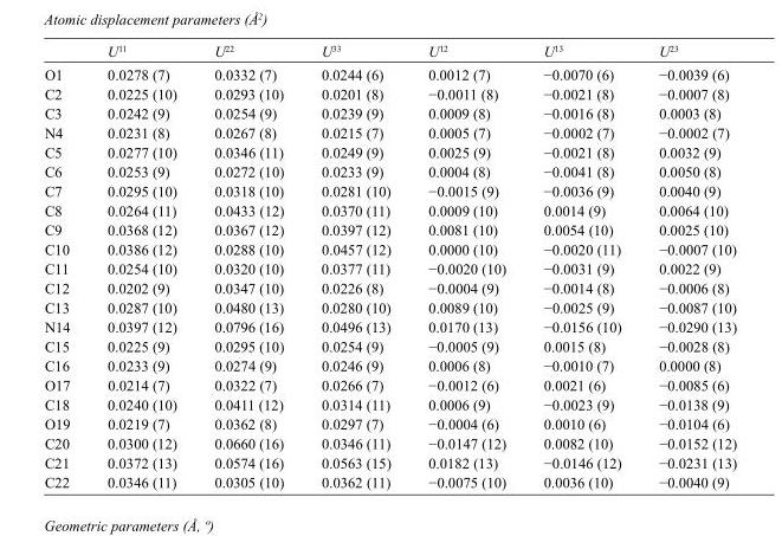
<table><thead><tr><td></td><td>U<sup>11</sup></td><td>U<sup>22</sup></td><td>U<sup>33</sup></td><td>U<sup>12</sup></td><td>U<sup>13</sup></td><td>U<sup>23</sup></td></tr></thead><tbody><tr><td>O1</td><td>0.0278 (7)</td><td>0.0332 (7)</td><td>0.0244 (6)</td><td>0.0012 (7)</td><td>−0.0070 (6)</td><td>−0.0039 (6)</td></tr><tr><td>C2</td><td>0.0225 (10)</td><td>0.0293 (10)</td><td>0.0201 (8)</td><td>−0.0011 (8)</td><td>−0.0021 (8)</td><td>−0.0007 (8)</td></tr><tr><td>C3</td><td>0.0242 (9)</td><td>0.0254 (9)</td><td>0.0239 (9)</td><td>0.0009 (8)</td><td>−0.0016 (8)</td><td>0.0003 (8)</td></tr><tr><td>N4</td><td>0.0231 (8)</td><td>0.0267 (8)</td><td>0.0215 (7)</td><td>0.0005 (7)</td><td>−0.0002 (7)</td><td>−0.0002 (7)</td></tr><tr><td>C5</td><td>0.0277 (10)</td><td>0.0346 (11)</td><td>0.0249 (9)</td><td>0.0025 (9)</td><td>−0.0021 (8)</td><td>0.0032 (9)</td></tr><tr><td>C6</td><td>0.0253 (9)</td><td>0.0272 (10)</td><td>0.0233 (9)</td><td>0.0004 (8)</td><td>−0.0041 (8)</td><td>0.0050 (8)</td></tr><tr><td>C7</td><td>0.0295 (10)</td><td>0.0318 (10)</td><td>0.0281 (10)</td><td>−0.0015 (9)</td><td>−0.0036 (9)</td><td>0.0040 (9)</td></tr><tr><td>C8</td><td>0.0264 (11)</td><td>0.0433 (12)</td><td>0.0370 (11)</td><td>0.0009 (10)</td><td>0.0014 (9)</td><td>0.0064 (10)</td></tr><tr><td>C9</td><td>0.0368 (12)</td><td>0.0367 (12)</td><td>0.0397 (12)</td><td>0.0081 (10)</td><td>0.0054 (10)</td><td>0.0025 (10)</td></tr><tr><td>C10</td><td>0.0386 (12)</td><td>0.0288 (10)</td><td>0.0457 (12)</td><td>0.0000 (10)</td><td>−0.0020 (11)</td><td>−0.0007 (10)</td></tr><tr><td>C11</td><td>0.0254 (10)</td><td>0.0320 (10)</td><td>0.0377 (11)</td><td>−0.0020 (10)</td><td>−0.0031 (9)</td><td>0.0022 (9)</td></tr><tr><td>C12</td><td>0.0202 (9)</td><td>0.0347 (10)</td><td>0.0226 (8)</td><td>−0.0004 (9)</td><td>−0.0014 (8)</td><td>−0.0006 (8)</td></tr><tr><td>C13</td><td>0.0287 (10)</td><td>0.0480 (13)</td><td>0.0280 (10)</td><td>0.0089 (10)</td><td>−0.0025 (9)</td><td>−0.0087 (10)</td></tr><tr><td>N14</td><td>0.0397 (12)</td><td>0.0796 (16)</td><td>0.0496 (13)</td><td>0.0170 (13)</td><td>−0.0156 (10)</td><td>−0.0290 (13)</td></tr><tr><td>C15</td><td>0.0225 (9)</td><td>0.0295 (10)</td><td>0.0254 (9)</td><td>−0.0005 (9)</td><td>0.0015 (8)</td><td>−0.0028 (8)</td></tr><tr><td>C16</td><td>0.0233 (9)</td><td>0.0274 (9)</td><td>0.0246 (9)</td><td>0.0006 (8)</td><td>−0.0010 (7)</td><td>0.0000 (8)</td></tr><tr><td>O17</td><td>0.0214 (7)</td><td>0.0322 (7)</td><td>0.0266 (7)</td><td>−0.0012 (6)</td><td>0.0021 (6)</td><td>−0.0085 (6)</td></tr><tr><td>C18</td><td>0.0240 (10)</td><td>0.0411 (12)</td><td>0.0314 (11)</td><td>0.0006 (9)</td><td>−0.0023 (9)</td><td>−0.0138 (9)</td></tr><tr><td>O19</td><td>0.0219 (7)</td><td>0.0362 (8)</td><td>0.0297 (7)</td><td>−0.0004 (6)</td><td>0.0010 (6)</td><td>−0.0104 (6)</td></tr><tr><td>C20</td><td>0.0300 (12)</td><td>0.0660 (16)</td><td>0.0346 (11)</td><td>−0.0147 (12)</td><td>0.0082 (10)</td><td>−0.0152 (12)</td></tr><tr><td>C21</td><td>0.0372 (13)</td><td>0.0574 (16)</td><td>0.0563 (15)</td><td>0.0182 (13)</td><td>−0.0146 (12)</td><td>−0.0231 (13)</td></tr><tr><td>C22</td><td>0.0346 (11)</td><td>0.0305 (10)</td><td>0.0362 (11)</td><td>−0.0075 (10)</td><td>0.0036 (10)</td><td>−0.0040 (9)</td></tr></tbody></table>